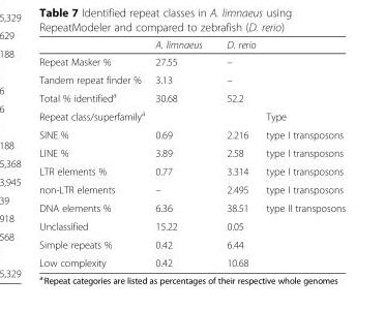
<table><thead><tr><td></td><td>A. limnaeus</td><td>D. rerio</td><td></td></tr></thead><tbody><tr><td>Repeat Masker %</td><td>27.55</td><td>–</td><td></td></tr><tr><td>Tandem repeat finder %</td><td>3.13</td><td>–</td><td></td></tr><tr><td>Total % identified<sup>a</sup></td><td>30.68</td><td>52.2</td><td></td></tr><tr><td>Repeat class/superfamily<sup>a</sup></td><td></td><td></td><td>Type</td></tr><tr><td>SINE %</td><td>0.69</td><td>2.216</td><td>type I transposons</td></tr><tr><td>LINE %</td><td>3.89</td><td>2.58</td><td>type I transposons</td></tr><tr><td>LTR elements %</td><td>0.77</td><td>3.314</td><td>type I transposons</td></tr><tr><td>non-LTR elements</td><td>–</td><td>2.495</td><td>type I transposons</td></tr><tr><td>DNA elements %</td><td>6.36</td><td>38.51</td><td>type II transposons</td></tr><tr><td>Unclassified</td><td>15.22</td><td>0.05</td><td></td></tr><tr><td>Simple repeats %</td><td>0.42</td><td>6.44</td><td></td></tr><tr><td>Low complexity</td><td>0.42</td><td>10.68</td><td></td></tr></tbody></table>